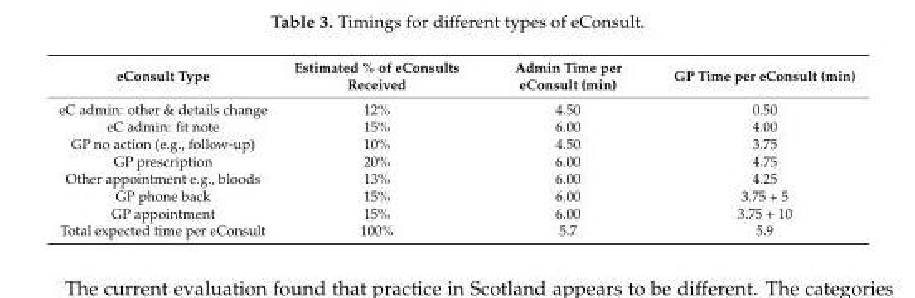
<table><thead><tr><td>eConsult Type</td><td>Estimated % of eConsults Received</td><td>Admin Time per eConsult (min)</td><td>GP Time per eConsult (min)</td></tr></thead><tbody><tr><td>eC admin: other &amp; details change</td><td>12%</td><td>4.50</td><td>0.50</td></tr><tr><td>eC admin: fit note</td><td>15%</td><td>6.00</td><td>4.00</td></tr><tr><td>GP no action (e.g., follow-up)</td><td>10%</td><td>4.50</td><td>3.75</td></tr><tr><td>GP prescription</td><td>20%</td><td>6.00</td><td>4.75</td></tr><tr><td>Other appointment e.g., bloods</td><td>13%</td><td>6.00</td><td>4.25</td></tr><tr><td>GP phone back</td><td>15%</td><td>6.00</td><td>3.75 + 5</td></tr><tr><td>GP appointment</td><td>15%</td><td>6.00</td><td>3.75 + 10</td></tr><tr><td>Total expected time per eConsult</td><td>100%</td><td>5.7</td><td>5.9</td></tr></tbody></table>